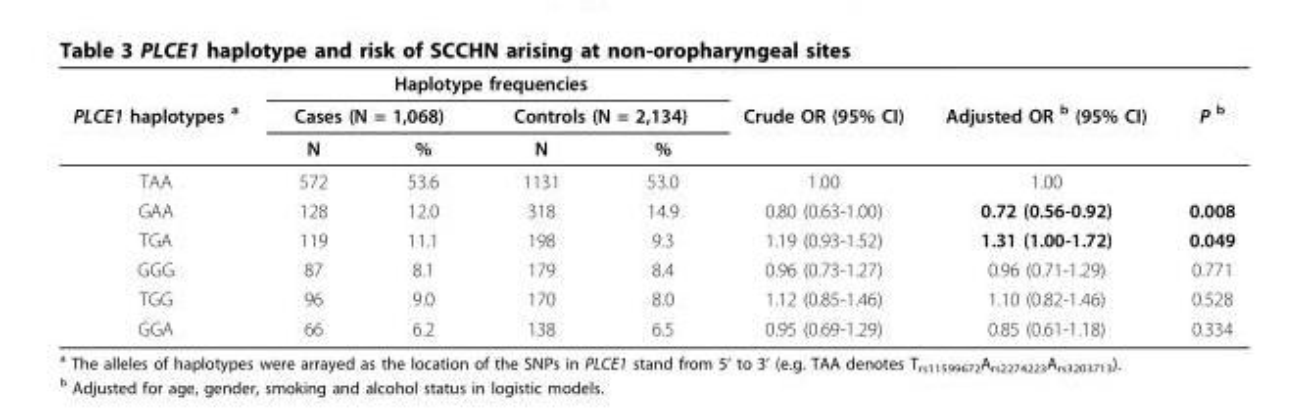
<table><thead><tr><td rowspan="3">PLCE1 haplotypes <sup>a</sup></td><td colspan="4">Haplotype frequencies</td><td rowspan="3">Crude OR (95% CI)</td><td rowspan="3">Adjusted OR <sup>b</sup> (95% CI)</td><td rowspan="3">P <sup>b</sup></td></tr><tr><td colspan="2">Cases (N = 1,068)</td><td colspan="2">Controls (N = 2,134)</td></tr><tr><td>N</td><td>%</td><td>N</td><td>%</td></tr></thead><tbody><tr><td>TAA</td><td>572</td><td>53.6</td><td>1131</td><td>53.0</td><td>1.00</td><td>1.00</td><td></td></tr><tr><td>GAA</td><td>128</td><td>12.0</td><td>318</td><td>14.9</td><td>0.80 (0.63-1.00)</td><td>0.72 (0.56-0.92)</td><td>0.008</td></tr><tr><td>TGA</td><td>119</td><td>11.1</td><td>198</td><td>9.3</td><td>1.19 (0.93-1.52)</td><td>1.31 (1.00-1.72)</td><td>0.049</td></tr><tr><td>GGG</td><td>87</td><td>8.1</td><td>179</td><td>8.4</td><td>0.96 (0.73-1.27)</td><td>0.96 (0.71-1.29)</td><td>0.771</td></tr><tr><td>TGG</td><td>96</td><td>9.0</td><td>170</td><td>8.0</td><td>1.12 (0.85-1.46)</td><td>1.10 (0.82-1.46)</td><td>0.528</td></tr><tr><td>GGA</td><td>66</td><td>6.2</td><td>138</td><td>6.5</td><td>0.95 (0.69-1.29)</td><td>0.85 (0.61-1.18)</td><td>0.334</td></tr></tbody></table>